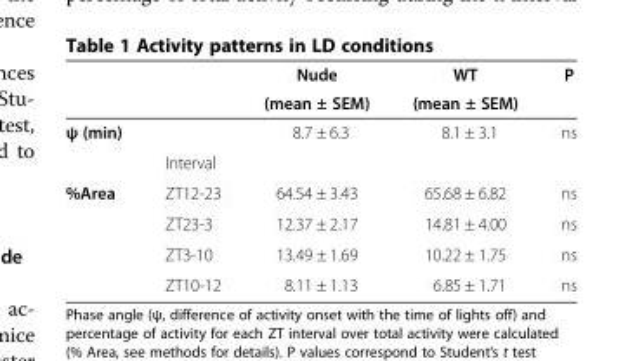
<table><thead><tr><td rowspan="2"></td><td rowspan="2"></td><td rowspan="2">Nude (mean ± SEM)</td><td rowspan="2">WT (mean ± SEM)</td><td rowspan="2">P</td></tr><tr></tr></thead><tbody><tr><td rowspan="2">ψ (min)</td><td></td><td>8.7 ± 6.3</td><td>8.1 ± 3.1</td><td>ns</td></tr><tr><td>Interval</td><td></td><td></td><td></td></tr><tr><td rowspan="4">%Area</td><td>ZT12-23</td><td>64.54 ± 3.43</td><td>65.68 ± 6.82</td><td>ns</td></tr><tr><td>ZT23-3</td><td>12.37 ± 2.17</td><td>14.81 ± 4.00</td><td>ns</td></tr><tr><td>ZT3-10</td><td>13.49 ± 1.69</td><td>10.22 ± 1.75</td><td>ns</td></tr><tr><td>ZT10-12</td><td>8.11 ± 1.13</td><td>6.85 ± 1.71</td><td>ns</td></tr></tbody></table>